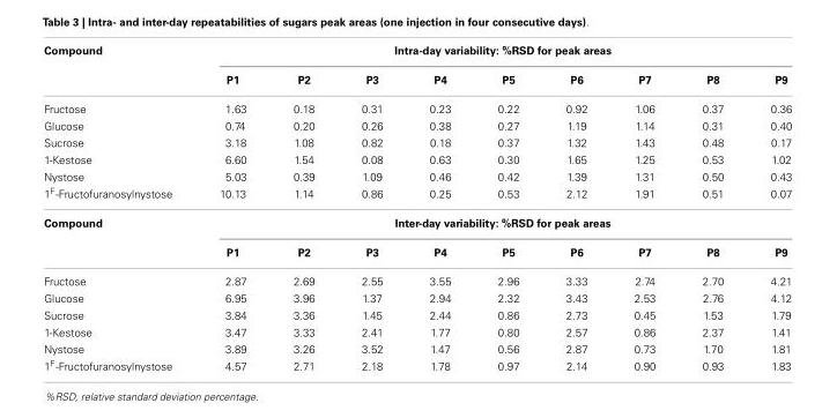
<table><thead><tr><td rowspan="2">Compound</td><td colspan="9">Intra-day variability: %RSD for peak areas</td></tr><tr><td>P1</td><td>P2</td><td>P3</td><td>P4</td><td>P5</td><td>P6</td><td>P7</td><td>P8</td><td>P9</td></tr></thead><tbody><tr><td>Fructose</td><td>1.63</td><td>0.18</td><td>0.31</td><td>0.23</td><td>0.22</td><td>0.92</td><td>1.06</td><td>0.37</td><td>0.36</td></tr><tr><td>Glucose</td><td>0.74</td><td>0.20</td><td>0.26</td><td>0.38</td><td>0.27</td><td>1.19</td><td>1.14</td><td>0.31</td><td>0.40</td></tr><tr><td>Sucrose</td><td>3.18</td><td>1.08</td><td>0.82</td><td>0.18</td><td>0.37</td><td>1.32</td><td>1.43</td><td>0.48</td><td>0.17</td></tr><tr><td>1-Kestose</td><td>6.60</td><td>1.54</td><td>0.08</td><td>0.63</td><td>0.30</td><td>1.65</td><td>1.25</td><td>0.53</td><td>1.02</td></tr><tr><td>Nystose</td><td>5.03</td><td>0.39</td><td>1.09</td><td>0.46</td><td>0.42</td><td>1.39</td><td>1.31</td><td>0.50</td><td>0.43</td></tr><tr><td>1<sup>F</sup>-Fructofuranosylnystose</td><td>10.13</td><td>1.14</td><td>0.86</td><td>0.25</td><td>0.53</td><td>2.12</td><td>1.91</td><td>0.51</td><td>0.07</td></tr><tr><td rowspan="2">Compound</td><td colspan="9">Inter-day variability: %RSD for peak areas</td></tr><tr><td>P1</td><td>P2</td><td>P3</td><td>P4</td><td>P5</td><td>P6</td><td>P7</td><td>P8</td><td>P9</td></tr><tr><td>Fructose</td><td>2.87</td><td>2.69</td><td>2.55</td><td>3.55</td><td>2.96</td><td>3.33</td><td>2.74</td><td>2.70</td><td>4.21</td></tr><tr><td>Glucose</td><td>6.95</td><td>3.96</td><td>1.37</td><td>2.94</td><td>2.32</td><td>3.43</td><td>2.53</td><td>2.76</td><td>4.12</td></tr><tr><td>Sucrose</td><td>3.84</td><td>3.36</td><td>1.45</td><td>2.44</td><td>0.86</td><td>2.73</td><td>0.45</td><td>1.53</td><td>1.79</td></tr><tr><td>1-Kestose</td><td>3.47</td><td>3.33</td><td>2.41</td><td>1.77</td><td>0.80</td><td>2.57</td><td>0.86</td><td>2.37</td><td>1.41</td></tr><tr><td>Nystose</td><td>3.89</td><td>3.26</td><td>3.52</td><td>1.47</td><td>0.56</td><td>2.87</td><td>0.73</td><td>1.70</td><td>1.81</td></tr><tr><td>1<sup>F</sup>-Fructofuranosylnystose</td><td>4.57</td><td>2.71</td><td>2.18</td><td>1.78</td><td>0.97</td><td>2.14</td><td>0.90</td><td>0.93</td><td>1.83</td></tr></tbody></table>